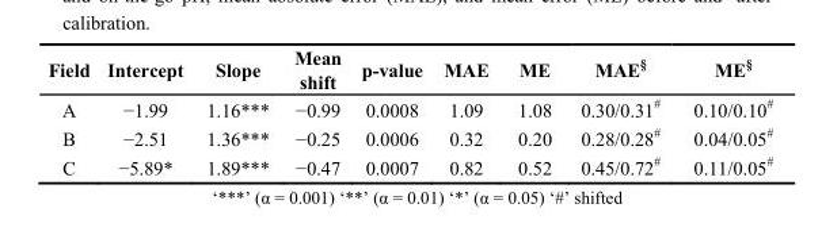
<table><thead><tr><td>Field</td><td>Intercept</td><td>Slope</td><td>Mean shift</td><td>p-value</td><td>MAE</td><td>ME</td><td>MAE<sup>§</sup></td><td>ME<sup>§</sup></td></tr></thead><tbody><tr><td>A</td><td>−1.99</td><td>1.16***</td><td>−0.99</td><td>0.0008</td><td>1.09</td><td>1.08</td><td>0.30/0.31<sup>#</sup></td><td>0.10/0.10<sup>#</sup></td></tr><tr><td>B</td><td>−2.51</td><td>1.36***</td><td>−0.25</td><td>0.0006</td><td>0.32</td><td>0.20</td><td>0.28/0.28<sup>#</sup></td><td>0.04/0.05<sup>#</sup></td></tr><tr><td>C</td><td>−5.89*</td><td>1.89***</td><td>−0.47</td><td>0.0007</td><td>0.82</td><td>0.52</td><td>0.45/0.72<sup>#</sup></td><td>0.11/0.05<sup>#</sup></td></tr></tbody></table>